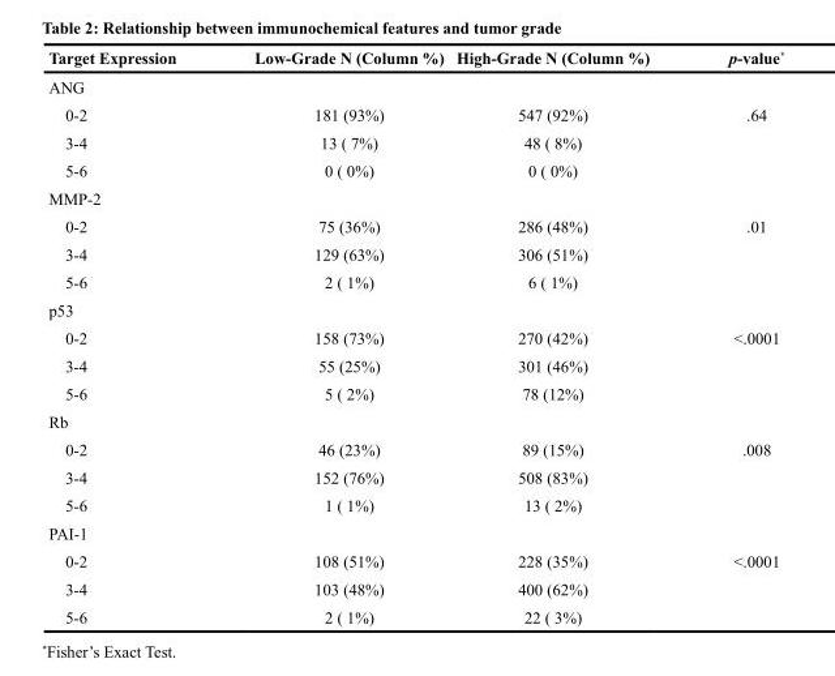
<table><thead><tr><td>Target Expression</td><td>Low-Grade N (Column %)</td><td>High-Grade N (Column %)</td><td>p-value*</td></tr></thead><tbody><tr><td colspan="4">ANG</td></tr><tr><td>0-2</td><td>181 (93%)</td><td>547 (92%)</td><td>.64</td></tr><tr><td>3-4</td><td>13 ( 7%)</td><td>48 ( 8%)</td><td></td></tr><tr><td>5-6</td><td>0 ( 0%)</td><td>0 ( 0%)</td><td></td></tr><tr><td colspan="4">MMP-2</td></tr><tr><td>0-2</td><td>75 (36%)</td><td>286 (48%)</td><td>.01</td></tr><tr><td>3-4</td><td>129 (63%)</td><td>306 (51%)</td><td></td></tr><tr><td>5-6</td><td>2 ( 1%)</td><td>6 ( 1%)</td><td></td></tr><tr><td colspan="4">p53</td></tr><tr><td>0-2</td><td>158 (73%)</td><td>270 (42%)</td><td>&lt;.0001</td></tr><tr><td>3-4</td><td>55 (25%)</td><td>301 (46%)</td><td></td></tr><tr><td>5-6</td><td>5 ( 2%)</td><td>78 (12%)</td><td></td></tr><tr><td colspan="4">Rb</td></tr><tr><td>0-2</td><td>46 (23%)</td><td>89 (15%)</td><td>.008</td></tr><tr><td>3-4</td><td>152 (76%)</td><td>508 (83%)</td><td></td></tr><tr><td>5-6</td><td>1 ( 1%)</td><td>13 ( 2%)</td><td></td></tr><tr><td colspan="4">PAI-1</td></tr><tr><td>0-2</td><td>108 (51%)</td><td>228 (35%)</td><td>&lt;.0001</td></tr><tr><td>3-4</td><td>103 (48%)</td><td>400 (62%)</td><td></td></tr><tr><td>5-6</td><td>2 ( 1%)</td><td>22 ( 3%)</td><td></td></tr></tbody></table>